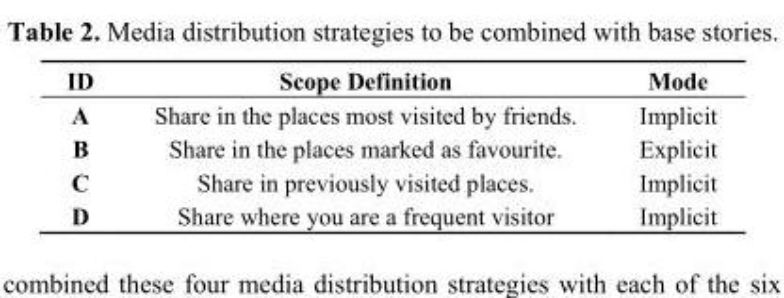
<table><thead><tr><td>ID</td><td>Scope Definition</td><td>Mode</td></tr></thead><tbody><tr><td>A</td><td>Share in the places most visited by friends.</td><td>Implicit</td></tr><tr><td>B</td><td>Share in the places marked as favourite.</td><td>Explicit</td></tr><tr><td>C</td><td>Share in previously visited places.</td><td>Implicit</td></tr><tr><td>D</td><td>Share where you are a frequent visitor</td><td>Implicit</td></tr></tbody></table>